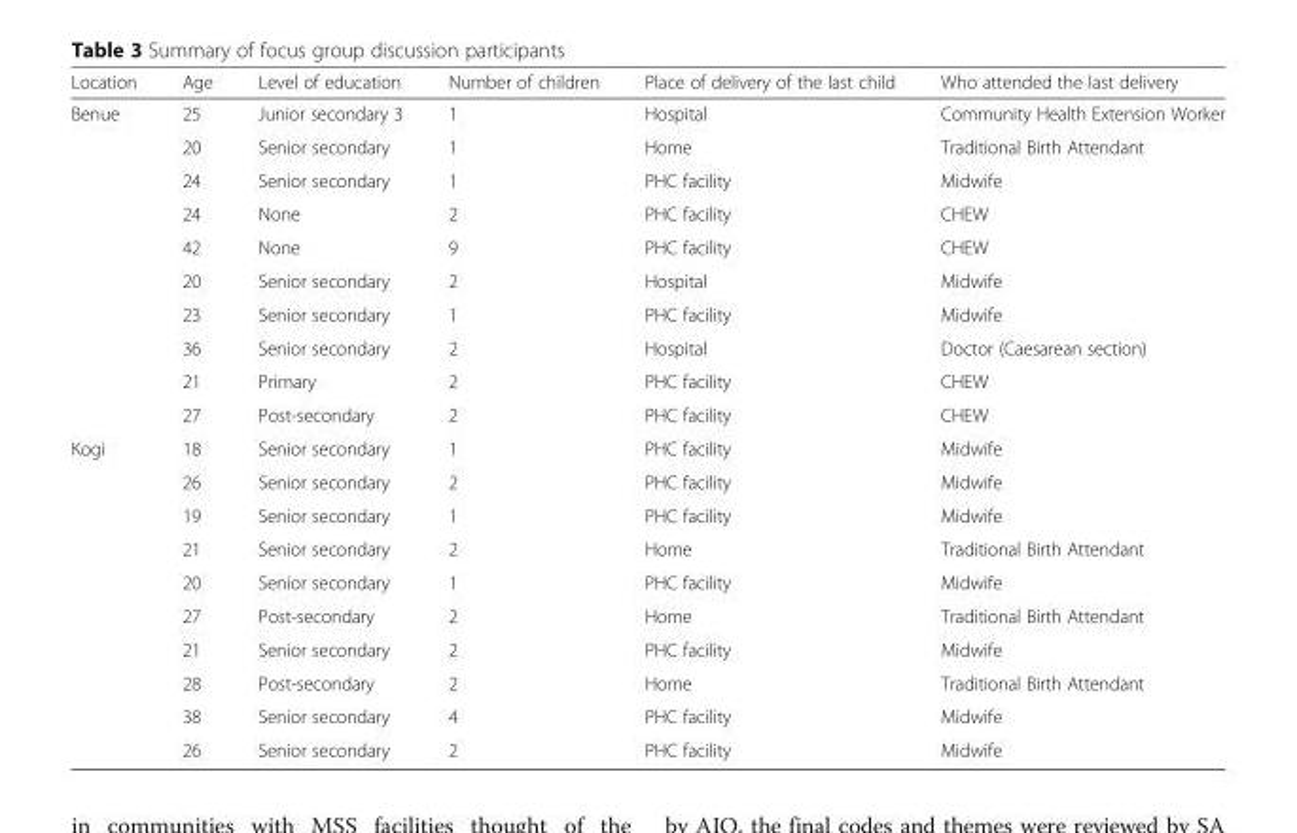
<table><thead><tr><td>Location</td><td>Age</td><td>Level of education</td><td>Number of children</td><td>Place of delivery of the last child</td><td>Who attended the last delivery</td></tr></thead><tbody><tr><td rowspan="10">Benue</td><td>25</td><td>Junior secondary 3</td><td>1</td><td>Hospital</td><td>Community Health Extension Worker</td></tr><tr><td>20</td><td>Senior secondary</td><td>1</td><td>Home</td><td>Traditional Birth Attendant</td></tr><tr><td>24</td><td>Senior secondary</td><td>1</td><td>PHC facility</td><td>Midwife</td></tr><tr><td>24</td><td>None</td><td>2</td><td>PHC facility</td><td>CHEW</td></tr><tr><td>42</td><td>None</td><td>9</td><td>PHC facility</td><td>CHEW</td></tr><tr><td>20</td><td>Senior secondary</td><td>2</td><td>Hospital</td><td>Midwife</td></tr><tr><td>23</td><td>Senior secondary</td><td>1</td><td>PHC facility</td><td>Midwife</td></tr><tr><td>36</td><td>Senior secondary</td><td>2</td><td>Hospital</td><td>Doctor (Caesarean section)</td></tr><tr><td>21</td><td>Primary</td><td>2</td><td>PHC facility</td><td>CHEW</td></tr><tr><td>27</td><td>Post-secondary</td><td>2</td><td>PHC facility</td><td>CHEW</td></tr><tr><td rowspan="10">Kogi</td><td>18</td><td>Senior secondary</td><td>1</td><td>PHC facility</td><td>Midwife</td></tr><tr><td>26</td><td>Senior secondary</td><td>2</td><td>PHC facility</td><td>Midwife</td></tr><tr><td>19</td><td>Senior secondary</td><td>1</td><td>PHC facility</td><td>Midwife</td></tr><tr><td>21</td><td>Senior secondary</td><td>2</td><td>Home</td><td>Traditional Birth Attendant</td></tr><tr><td>20</td><td>Senior secondary</td><td>1</td><td>PHC facility</td><td>Midwife</td></tr><tr><td>27</td><td>Post-secondary</td><td>2</td><td>Home</td><td>Traditional Birth Attendant</td></tr><tr><td>21</td><td>Senior secondary</td><td>2</td><td>PHC facility</td><td>Midwife</td></tr><tr><td>28</td><td>Post-secondary</td><td>2</td><td>Home</td><td>Traditional Birth Attendant</td></tr><tr><td>38</td><td>Senior secondary</td><td>4</td><td>PHC facility</td><td>Midwife</td></tr><tr><td>26</td><td>Senior secondary</td><td>2</td><td>PHC facility</td><td>Midwife</td></tr></tbody></table>